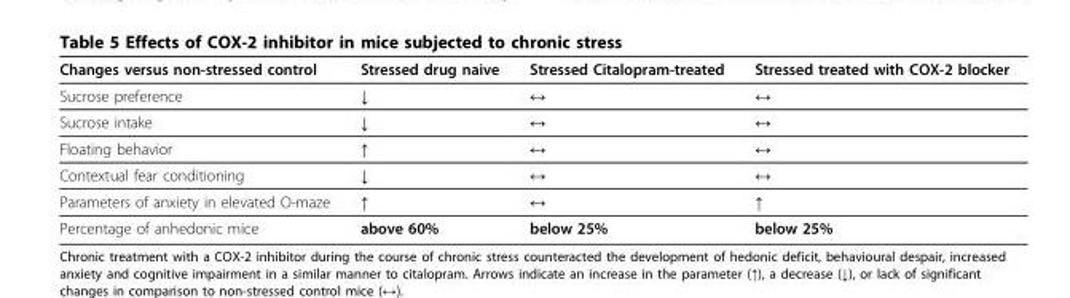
<table><thead><tr><td>Changes versus non-stressed control</td><td>Stressed drug naive</td><td>Stressed Citalopram-treated</td><td>Stressed treated with COX-2 blocker</td></tr></thead><tbody><tr><td>Sucrose preference</td><td>↓</td><td>↔</td><td>↔</td></tr><tr><td>Sucrose intake</td><td>↓</td><td>↔</td><td>↔</td></tr><tr><td>Floating behavior</td><td>↑</td><td>↔</td><td>↔</td></tr><tr><td>Contextual fear conditioning</td><td>↓</td><td>↔</td><td>↔</td></tr><tr><td>Parameters of anxiety in elevated O-maze</td><td>↑</td><td>↔</td><td>↑</td></tr><tr><td>Percentage of anhedonic mice</td><td>above 60%</td><td>below 25%</td><td>below 25%</td></tr></tbody></table>